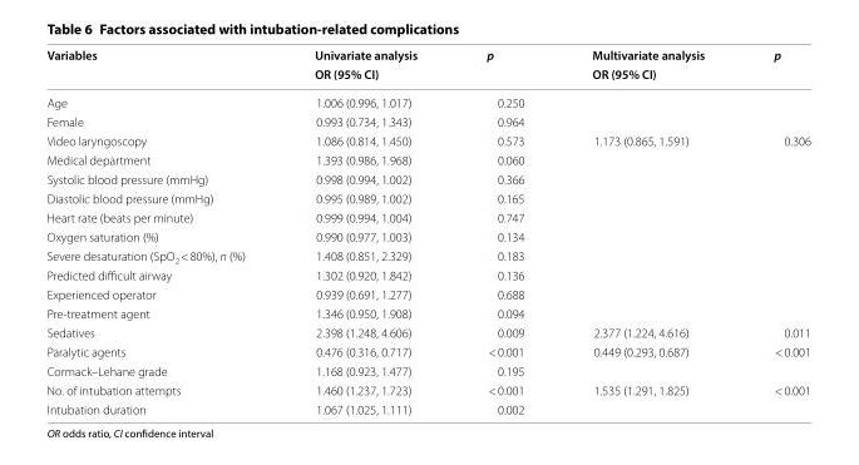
<table><thead><tr><td rowspan="2">Variables</td><td rowspan="2">Univariate analysis OR (95% CI)</td><td rowspan="2">p</td><td rowspan="2">Multivariate analysis OR (95% CI)</td><td rowspan="2">p</td></tr><tr></tr></thead><tbody><tr><td>Age</td><td>1.006 (0.996, 1.017)</td><td>0.250</td><td></td><td></td></tr><tr><td>Female</td><td>0.993 (0.734, 1.343)</td><td>0.964</td><td></td><td></td></tr><tr><td>Video laryngoscopy</td><td>1.086 (0.814, 1.450)</td><td>0.573</td><td>1.173 (0.865, 1.591)</td><td>0.306</td></tr><tr><td>Medical department</td><td>1.393 (0.986, 1.968)</td><td>0.060</td><td></td><td></td></tr><tr><td>Systolic blood pressure (mmHg)</td><td>0.998 (0.994, 1.002)</td><td>0.366</td><td></td><td></td></tr><tr><td>Diastolic blood pressure (mmHg)</td><td>0.995 (0.989, 1.002)</td><td>0.165</td><td></td><td></td></tr><tr><td>Heart rate (beats per minute)</td><td>0.999 (0.994, 1.004)</td><td>0.747</td><td></td><td></td></tr><tr><td>Oxygen saturation (%)</td><td>0.990 (0.977, 1.003)</td><td>0.134</td><td></td><td></td></tr><tr><td>Severe desaturation (SpO<sub>2</sub> &lt; 80%), n (%)</td><td>1.408 (0.851, 2.329)</td><td>0.183</td><td></td><td></td></tr><tr><td>Predicted difficult airway</td><td>1.302 (0.920, 1.842)</td><td>0.136</td><td></td><td></td></tr><tr><td>Experienced operator</td><td>0.939 (0.691, 1.277)</td><td>0.688</td><td></td><td></td></tr><tr><td>Pre‑treatment agent</td><td>1.346 (0.950, 1.908)</td><td>0.094</td><td></td><td></td></tr><tr><td>Sedatives</td><td>2.398 (1.248, 4.606)</td><td>0.009</td><td>2.377 (1.224, 4.616)</td><td>0.011</td></tr><tr><td>Paralytic agents</td><td>0.476 (0.316, 0.717)</td><td>&lt; 0.001</td><td>0.449 (0.293, 0.687)</td><td>&lt; 0.001</td></tr><tr><td>Cormack–Lehane grade</td><td>1.168 (0.923, 1.477)</td><td>0.195</td><td></td><td></td></tr><tr><td>No. of intubation attempts</td><td>1.460 (1.237, 1.723)</td><td>&lt; 0.001</td><td>1.535 (1.291, 1.825)</td><td>&lt; 0.001</td></tr><tr><td>Intubation duration</td><td>1.067 (1.025, 1.111)</td><td>0.002</td><td></td><td></td></tr></tbody></table>